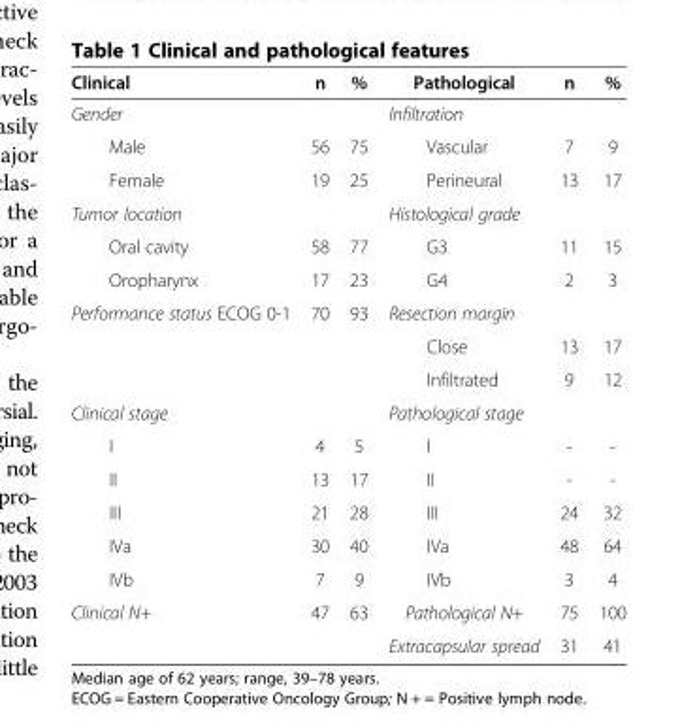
<table><thead><tr><td>Clinical</td><td>n</td><td>%</td><td>Pathological</td><td>n</td><td>%</td></tr></thead><tbody><tr><td>Gender</td><td></td><td></td><td>Infiltration</td><td></td><td></td></tr><tr><td>Male</td><td>56</td><td>75</td><td>Vascular</td><td>7</td><td>9</td></tr><tr><td>Female</td><td>19</td><td>25</td><td>Perineural</td><td>13</td><td>17</td></tr><tr><td>Tumor location</td><td></td><td></td><td>Histological grade</td><td></td><td></td></tr><tr><td>Oral cavity</td><td>58</td><td>77</td><td>G3</td><td>11</td><td>15</td></tr><tr><td>Oropharynx</td><td>17</td><td>23</td><td>G4</td><td>2</td><td>3</td></tr><tr><td rowspan="3">Performance status ECOG 0-1</td><td rowspan="3">70</td><td rowspan="3">93</td><td>Resection margin</td><td></td><td></td></tr><tr><td>Close</td><td>13</td><td>17</td></tr><tr><td>Infiltrated</td><td>9</td><td>12</td></tr><tr><td>Clinical stage</td><td></td><td></td><td>Pathological stage</td><td></td><td></td></tr><tr><td>I</td><td>4</td><td>5</td><td>I</td><td>-</td><td>-</td></tr><tr><td>II</td><td>13</td><td>17</td><td>II</td><td>-</td><td>-</td></tr><tr><td>III</td><td>21</td><td>28</td><td>III</td><td>24</td><td>32</td></tr><tr><td>IVa</td><td>30</td><td>40</td><td>IVa</td><td>48</td><td>64</td></tr><tr><td>IVb</td><td>7</td><td>9</td><td>IVb</td><td>3</td><td>4</td></tr><tr><td>Clinical N+</td><td>47</td><td>63</td><td>Pathological N+</td><td>75</td><td>100</td></tr><tr><td colspan="3"></td><td>Extracapsular spread</td><td>31</td><td>41</td></tr></tbody></table>